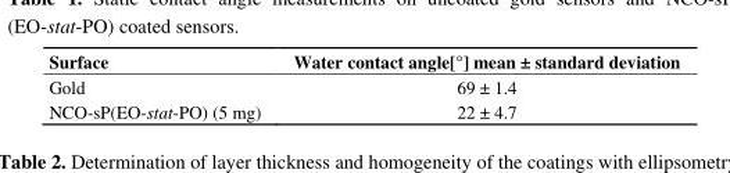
<table><thead><tr><td>Surface</td><td>Water contact angle[°] mean ± standard deviation</td></tr></thead><tbody><tr><td>Gold</td><td>69 ± 1.4</td></tr><tr><td>NCO-sP(EO-stat-PO) (5 mg)</td><td>22 ± 4.7</td></tr></tbody></table>